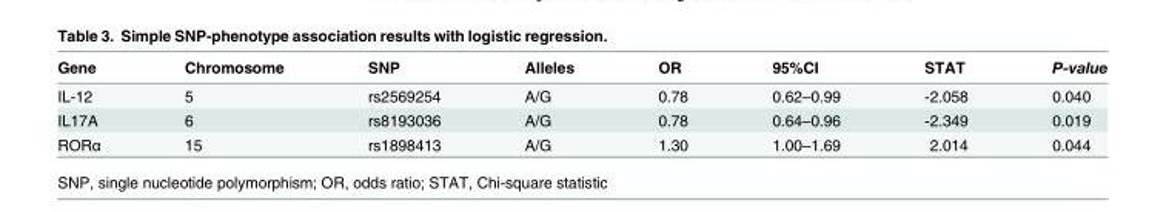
<table><thead><tr><td>Gene</td><td>Chromosome</td><td>SNP</td><td>Alleles</td><td>OR</td><td>95%CI</td><td>STAT</td><td>P-value</td></tr></thead><tbody><tr><td>IL-12</td><td>5</td><td>rs2569254</td><td>A/G</td><td>0.78</td><td>0.62–0.99</td><td>-2.058</td><td>0.040</td></tr><tr><td>IL17A</td><td>6</td><td>rs8193036</td><td>A/G</td><td>0.78</td><td>0.64–0.96</td><td>-2.349</td><td>0.019</td></tr><tr><td>RORα</td><td>15</td><td>rs1898413</td><td>A/G</td><td>1.30</td><td>1.00–1.69</td><td>2.014</td><td>0.044</td></tr></tbody></table>